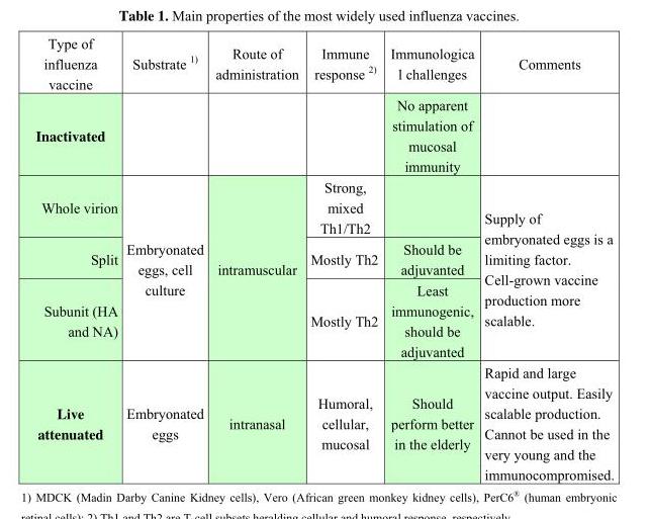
<table><thead><tr><td>Type of influenza vaccine</td><td>Substrate <sup>1)</sup></td><td>Route of administration</td><td>Immune response <sup>2)</sup></td><td>Immunologica l challenges</td><td>Comments</td></tr></thead><tbody><tr><td>Inactivated</td><td></td><td></td><td></td><td>No apparent stimulation of mucosal immunity</td><td></td></tr><tr><td>Whole virion</td><td rowspan="3">Embryonated eggs, cell culture</td><td rowspan="3">intramuscular</td><td>Strong, mixed Th1/Th2</td><td></td><td rowspan="3">Supply of embryonated eggs is a limiting factor. Cell-grown vaccine production more scalable.</td></tr><tr><td>Split</td><td>Mostly Th2</td><td>Should be adjuvanted</td></tr><tr><td>Subunit (HA and NA)</td><td>Mostly Th2</td><td>Least immunogenic, should be adjuvanted</td></tr><tr><td>Live attenuated</td><td>Embryonated eggs</td><td>intranasal</td><td>Humoral, cellular, mucosal</td><td>Should perform better in the elderly</td><td>Rapid and large vaccine output. Easily scalable production. Cannot be used in the very young and the immunocompromised.</td></tr></tbody></table>